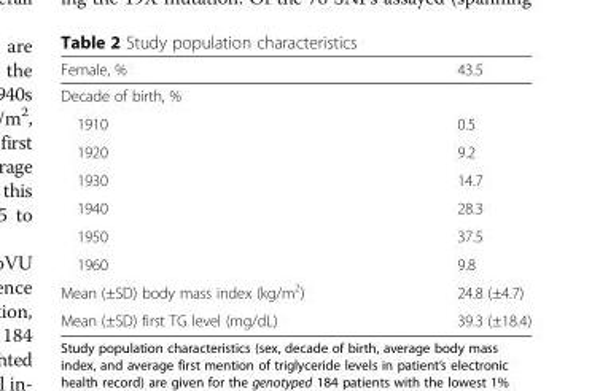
<table><thead><tr><td>Female, %</td><td>43.5</td></tr></thead><tbody><tr><td colspan="2">Decade of birth, %</td></tr><tr><td>1910</td><td>0.5</td></tr><tr><td>1920</td><td>9.2</td></tr><tr><td>1930</td><td>14.7</td></tr><tr><td>1940</td><td>28.3</td></tr><tr><td>1950</td><td>37.5</td></tr><tr><td>1960</td><td>9.8</td></tr><tr><td>Mean (±SD) body mass index (kg/m<sup>2</sup>)</td><td>24.8 (±4.7)</td></tr><tr><td>Mean (±SD) first TG level (mg/dL)</td><td>39.3 (±18.4)</td></tr></tbody></table>